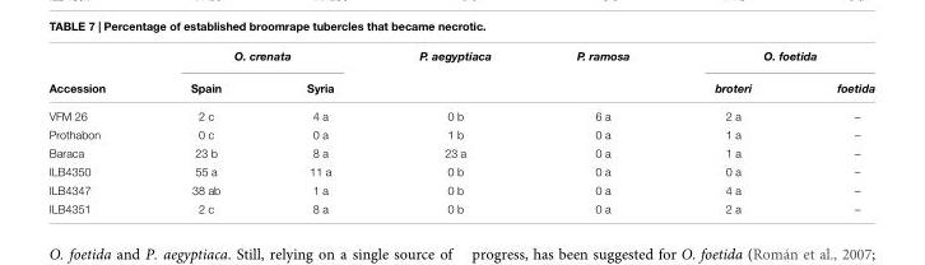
<table><thead><tr><td rowspan="2">Accession</td><td colspan="2">O. crenata</td><td rowspan="2">P. aegyptiaca</td><td rowspan="2">P. ramosa</td><td colspan="2">O. foetida</td></tr><tr><td>Spain</td><td>Syria</td><td>broteri</td><td>foetida</td></tr></thead><tbody><tr><td>VFM 26</td><td>2 c</td><td>4 a</td><td>0 b</td><td>6 a</td><td>2 a</td><td>–</td></tr><tr><td>Prothabon</td><td>0 c</td><td>0 a</td><td>1 b</td><td>0 a</td><td>1 a</td><td>–</td></tr><tr><td>Baraca</td><td>23 b</td><td>8 a</td><td>23 a</td><td>0 a</td><td>1 a</td><td>–</td></tr><tr><td>ILB4350</td><td>55 a</td><td>11 a</td><td>0 b</td><td>0 a</td><td>0 a</td><td>–</td></tr><tr><td>ILB4347</td><td>38 ab</td><td>1 a</td><td>0 b</td><td>0 a</td><td>4 a</td><td>–</td></tr><tr><td>ILB4351</td><td>2 c</td><td>8 a</td><td>0 b</td><td>0 a</td><td>2 a</td><td>–</td></tr></tbody></table>